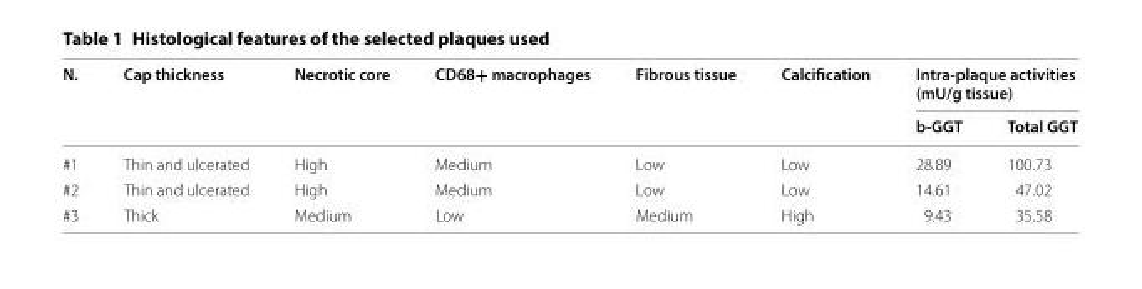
<table><thead><tr><td rowspan="2">N.</td><td rowspan="2">Cap thickness</td><td rowspan="2">Necrotic core</td><td rowspan="2">CD68+ macrophages</td><td rowspan="2">Fibrous tissue</td><td rowspan="2">Calcification</td><td colspan="2">Intra‑plaque activities (mU/g tissue)</td></tr><tr><td>b‑GGT</td><td>Total GGT</td></tr></thead><tbody><tr><td>#1</td><td>Thin and ulcerated</td><td>High</td><td>Medium</td><td>Low</td><td>Low</td><td>28.89</td><td>100.73</td></tr><tr><td>#2</td><td>Thin and ulcerated</td><td>High</td><td>Medium</td><td>Low</td><td>Low</td><td>14.61</td><td>47.02</td></tr><tr><td>#3</td><td>Thick</td><td>Medium</td><td>Low</td><td>Medium</td><td>High</td><td>9.43</td><td>35.58</td></tr></tbody></table>